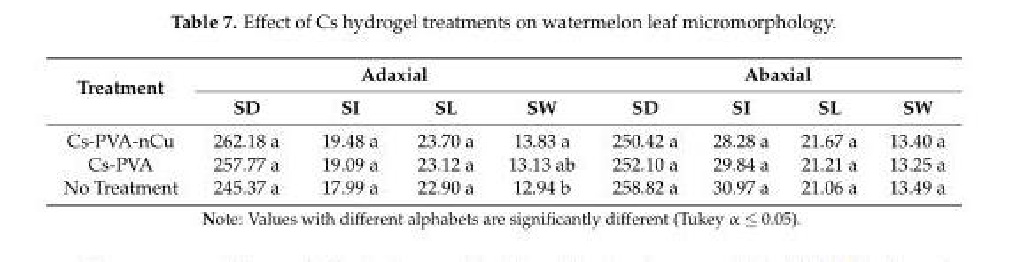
<table><thead><tr><td rowspan="2">Treatment</td><td colspan="4">Adaxial</td><td colspan="4">Abaxial</td></tr><tr><td>SD</td><td>SI</td><td>SL</td><td>SW</td><td>SD</td><td>SI</td><td>SL</td><td>SW</td></tr></thead><tbody><tr><td>Cs-PVA-nCu</td><td>262.18 a</td><td>19.48 a</td><td>23.70 a</td><td>13.83 a</td><td>250.42 a</td><td>28.28 a</td><td>21.67 a</td><td>13.40 a</td></tr><tr><td>Cs-PVA</td><td>257.77 a</td><td>19.09 a</td><td>23.12 a</td><td>13.13 ab</td><td>252.10 a</td><td>29.84 a</td><td>21.21 a</td><td>13.25 a</td></tr><tr><td>No Treatment</td><td>245.37 a</td><td>17.99 a</td><td>22.90 a</td><td>12.94 b</td><td>258.82 a</td><td>30.97 a</td><td>21.06 a</td><td>13.49 a</td></tr></tbody></table>